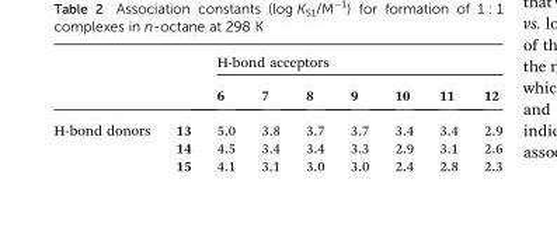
<table><thead><tr><td rowspan="2"></td><td rowspan="2"></td><td colspan="7">H-bond acceptors</td></tr><tr><td>6</td><td>7</td><td>8</td><td>9</td><td>10</td><td>11</td><td>12</td></tr></thead><tbody><tr><td rowspan="3">H-bond donors</td><td>13</td><td>5.0</td><td>3.8</td><td>3.7</td><td>3.7</td><td>3.4</td><td>3.4</td><td>2.9</td></tr><tr><td>14</td><td>4.5</td><td>3.4</td><td>3.4</td><td>3.3</td><td>2.9</td><td>3.1</td><td>2.6</td></tr><tr><td>15</td><td>4.1</td><td>3.1</td><td>3.0</td><td>3.0</td><td>2.4</td><td>2.8</td><td>2.3</td></tr></tbody></table>